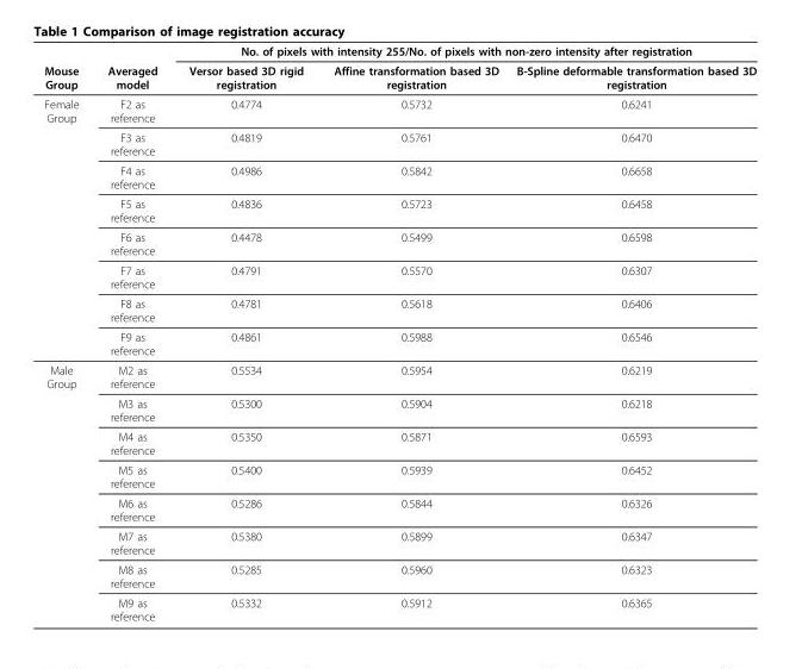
<table><thead><tr><td rowspan="2">Mouse Group</td><td rowspan="2">Averaged model</td><td colspan="3">No. of pixels with intensity 255/No. of pixels with non-zero intensity after registration</td></tr><tr><td>Versor based 3D rigid registration</td><td>Affine transformation based 3D registration</td><td>B-Spline deformable transformation based 3D registration</td></tr></thead><tbody><tr><td rowspan="8">Female Group</td><td>F2 as reference</td><td>0.4774</td><td>0.5732</td><td>0.6241</td></tr><tr><td>F3 as reference</td><td>0.4819</td><td>0.5761</td><td>0.6470</td></tr><tr><td>F4 as reference</td><td>0.4986</td><td>0.5842</td><td>0.6658</td></tr><tr><td>F5 as reference</td><td>0.4836</td><td>0.5723</td><td>0.6458</td></tr><tr><td>F6 as reference</td><td>0.4478</td><td>0.5499</td><td>0.6598</td></tr><tr><td>F7 as reference</td><td>0.4791</td><td>0.5570</td><td>0.6307</td></tr><tr><td>F8 as reference</td><td>0.4781</td><td>0.5618</td><td>0.6406</td></tr><tr><td>F9 as reference</td><td>0.4861</td><td>0.5988</td><td>0.6546</td></tr><tr><td rowspan="8">Male Group</td><td>M2 as reference</td><td>0.5534</td><td>0.5954</td><td>0.6219</td></tr><tr><td>M3 as reference</td><td>0.5300</td><td>0.5904</td><td>0.6218</td></tr><tr><td>M4 as reference</td><td>0.5350</td><td>0.5871</td><td>0.6593</td></tr><tr><td>M5 as reference</td><td>0.5400</td><td>0.5939</td><td>0.6452</td></tr><tr><td>M6 as reference</td><td>0.5286</td><td>0.5844</td><td>0.6326</td></tr><tr><td>M7 as reference</td><td>0.5380</td><td>0.5899</td><td>0.6347</td></tr><tr><td>M8 as reference</td><td>0.5285</td><td>0.5960</td><td>0.6323</td></tr><tr><td>M9 as reference</td><td>0.5332</td><td>0.5912</td><td>0.6365</td></tr></tbody></table>